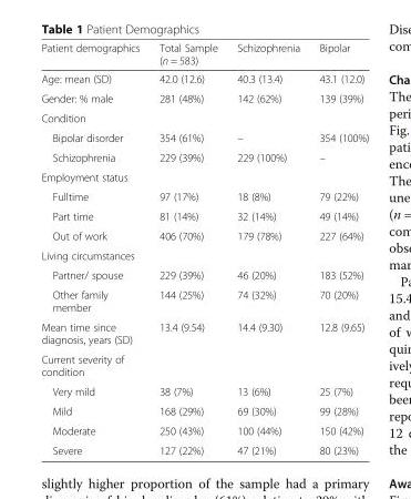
<table><thead><tr><td>Patient demographics</td><td>Total Sample (n = 583)</td><td>Schizophrenia</td><td>Bipolar</td></tr></thead><tbody><tr><td>Age: mean (SD)</td><td>42.0 (12.6)</td><td>40.3 (13.4)</td><td>43.1 (12.0)</td></tr><tr><td>Gender: % male</td><td>281 (48%)</td><td>142 (62%)</td><td>139 (39%)</td></tr><tr><td colspan="4">Condition</td></tr><tr><td>Bipolar disorder</td><td>354 (61%)</td><td>–</td><td>354 (100%)</td></tr><tr><td>Schizophrenia</td><td>229 (39%)</td><td>229 (100%)</td><td>–</td></tr><tr><td colspan="4">Employment status</td></tr><tr><td>Fulltime</td><td>97 (17%)</td><td>18 (8%)</td><td>79 (22%)</td></tr><tr><td>Part time</td><td>81 (14%)</td><td>32 (14%)</td><td>49 (14%)</td></tr><tr><td>Out of work</td><td>406 (70%)</td><td>179 (78%)</td><td>227 (64%)</td></tr><tr><td colspan="4">Living circumstances</td></tr><tr><td>Partner/ spouse</td><td>229 (39%)</td><td>46 (20%)</td><td>183 (52%)</td></tr><tr><td>Other family member</td><td>144 (25%)</td><td>74 (32%)</td><td>70 (20%)</td></tr><tr><td>Mean time since diagnosis, years (SD)</td><td>13.4 (9.54)</td><td>14.4 (9.30)</td><td>12.8 (9.65)</td></tr><tr><td colspan="4">Current severity of condition</td></tr><tr><td>Very mild</td><td>38 (7%)</td><td>13 (6%)</td><td>25 (7%)</td></tr><tr><td>Mild</td><td>168 (29%)</td><td>69 (30%)</td><td>99 (28%)</td></tr><tr><td>Moderate</td><td>250 (43%)</td><td>100 (44%)</td><td>150 (42%)</td></tr><tr><td>Severe</td><td>127 (22%)</td><td>47 (21%)</td><td>80 (23%)</td></tr></tbody></table>